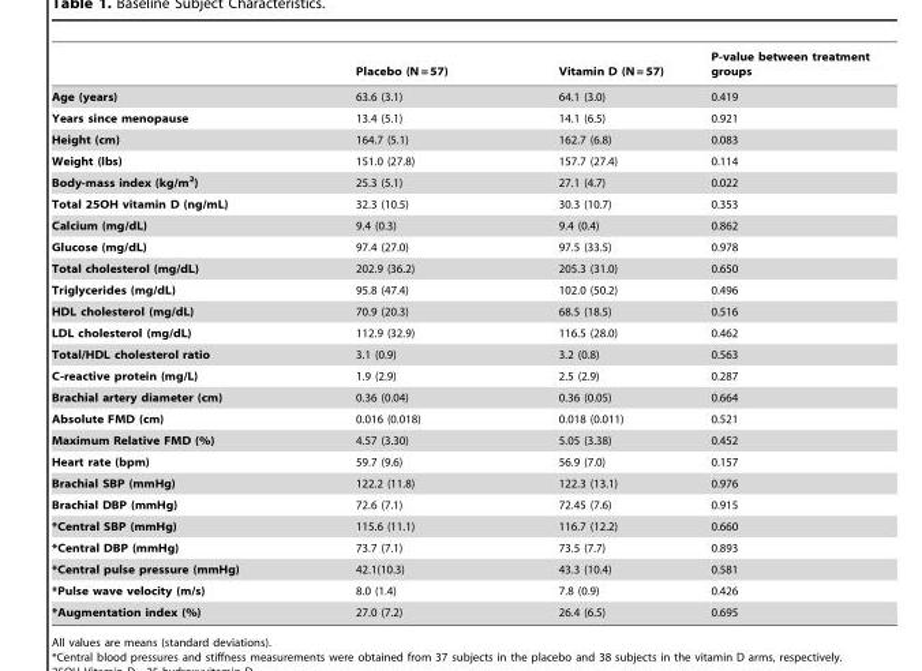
<table><thead><tr><td></td><td>Placebo (N = 57)</td><td>Vitamin D (N = 57)</td><td>P-value between treatment groups</td></tr></thead><tbody><tr><td>Age (years)</td><td>63.6 (3.1)</td><td>64.1 (3.0)</td><td>0.419</td></tr><tr><td>Years since menopause</td><td>13.4 (5.1)</td><td>14.1 (6.5)</td><td>0.921</td></tr><tr><td>Height (cm)</td><td>164.7 (5.1)</td><td>162.7 (6.8)</td><td>0.083</td></tr><tr><td>Weight (lbs)</td><td>151.0 (27.8)</td><td>157.7 (27.4)</td><td>0.114</td></tr><tr><td>Body-mass index (kg/m<sup>2</sup>)</td><td>25.3 (5.1)</td><td>27.1 (4.7)</td><td>0.022</td></tr><tr><td>Total 25OH vitamin D (ng/mL)</td><td>32.3 (10.5)</td><td>30.3 (10.7)</td><td>0.353</td></tr><tr><td>Calcium (mg/dL)</td><td>9.4 (0.3)</td><td>9.4 (0.4)</td><td>0.862</td></tr><tr><td>Glucose (mg/dL)</td><td>97.4 (27.0)</td><td>97.5 (33.5)</td><td>0.978</td></tr><tr><td>Total cholesterol (mg/dL)</td><td>202.9 (36.2)</td><td>205.3 (31.0)</td><td>0.650</td></tr><tr><td>Triglycerides (mg/dL)</td><td>95.8 (47.4)</td><td>102.0 (50.2)</td><td>0.496</td></tr><tr><td>HDL cholesterol (mg/dL)</td><td>70.9 (20.3)</td><td>68.5 (18.5)</td><td>0.516</td></tr><tr><td>LDL cholesterol (mg/dL)</td><td>112.9 (32.9)</td><td>116.5 (28.0)</td><td>0.462</td></tr><tr><td>Total/HDL cholesterol ratio</td><td>3.1 (0.9)</td><td>3.2 (0.8)</td><td>0.563</td></tr><tr><td>C-reactive protein (mg/L)</td><td>1.9 (2.9)</td><td>2.5 (2.9)</td><td>0.287</td></tr><tr><td>Brachial artery diameter (cm)</td><td>0.36 (0.04)</td><td>0.36 (0.05)</td><td>0.664</td></tr><tr><td>Absolute FMD (cm)</td><td>0.016 (0.018)</td><td>0.018 (0.011)</td><td>0.521</td></tr><tr><td>Maximum Relative FMD (%)</td><td>4.57 (3.30)</td><td>5.05 (3.38)</td><td>0.452</td></tr><tr><td>Heart rate (bpm)</td><td>59.7 (9.6)</td><td>56.9 (7.0)</td><td>0.157</td></tr><tr><td>Brachial SBP (mmHg)</td><td>122.2 (11.8)</td><td>122.3 (13.1)</td><td>0.976</td></tr><tr><td>Brachial DBP (mmHg)</td><td>72.6 (7.1)</td><td>72.45 (7.6)</td><td>0.915</td></tr><tr><td>*Central SBP (mmHg)</td><td>115.6 (11.1)</td><td>116.7 (12.2)</td><td>0.660</td></tr><tr><td>*Central DBP (mmHg)</td><td>73.7 (7.1)</td><td>73.5 (7.7)</td><td>0.893</td></tr><tr><td>*Central pulse pressure (mmHg)</td><td>42.1(10.3)</td><td>43.3 (10.4)</td><td>0.581</td></tr><tr><td>*Pulse wave velocity (m/s)</td><td>8.0 (1.4)</td><td>7.8 (0.9)</td><td>0.426</td></tr><tr><td>*Augmentation index (%)</td><td>27.0 (7.2)</td><td>26.4 (6.5)</td><td>0.695</td></tr></tbody></table>